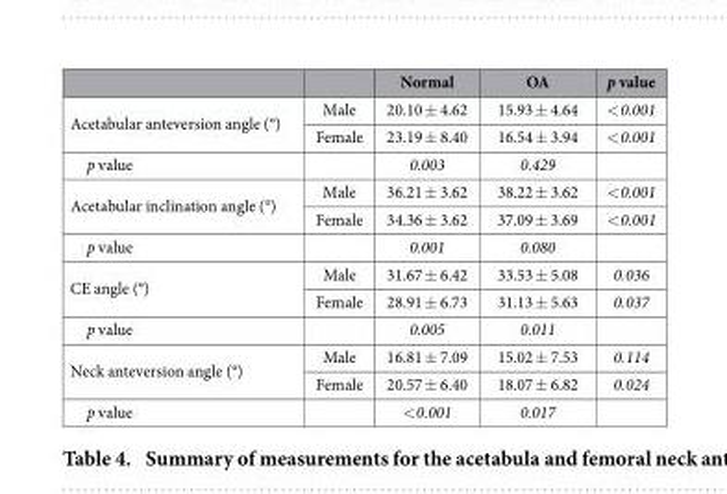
<table><thead><tr><td></td><td></td><td>Normal</td><td>OA</td><td>p value</td></tr></thead><tbody><tr><td rowspan="2">Acetabular anteversion angle (°)</td><td>Male</td><td>20.10 ± 4.62</td><td>15.93 ± 4.64</td><td>&lt; 0.001</td></tr><tr><td>Female</td><td>23.19 ± 8.40</td><td>16.54 ± 3.94</td><td>&lt; 0.001</td></tr><tr><td>p value</td><td></td><td>0.003</td><td>0.429</td><td></td></tr><tr><td rowspan="2">Acetabular inclination angle (°)</td><td>Male</td><td>36.21 ± 3.62</td><td>38.22 ± 3.62</td><td>&lt; 0.001</td></tr><tr><td>Female</td><td>34.36 ± 3.62</td><td>37.09 ± 3.69</td><td>&lt; 0.001</td></tr><tr><td>p value</td><td></td><td>0.001</td><td>0.080</td><td></td></tr><tr><td rowspan="2">CE angle (°)</td><td>Male</td><td>31.67 ± 6.42</td><td>33.53 ± 5.08</td><td>0.036</td></tr><tr><td>Female</td><td>28.91 ± 6.73</td><td>31.13 ± 5.63</td><td>0.037</td></tr><tr><td>p value</td><td></td><td>0.005</td><td>0.011</td><td></td></tr><tr><td rowspan="2">Neck anteversion angle (°)</td><td>Male</td><td>16.81 ± 7.09</td><td>15.02 ± 7.53</td><td>0.114</td></tr><tr><td>Female</td><td>20.57 ± 6.40</td><td>18.07 ± 6.82</td><td>0.024</td></tr><tr><td>p value</td><td></td><td>&lt; 0.001</td><td>0.017</td><td></td></tr></tbody></table>